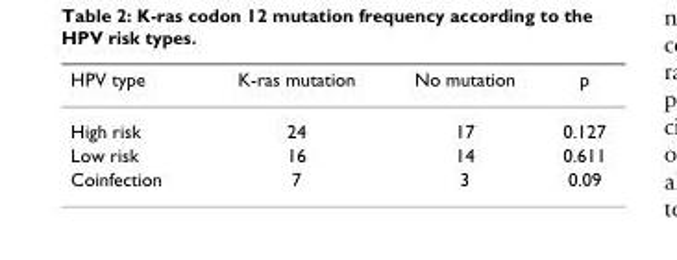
<table><thead><tr><td>HPV type</td><td>K-ras mutation</td><td>No mutation</td><td>p</td></tr></thead><tbody><tr><td>High risk</td><td>24</td><td>17</td><td>0.127</td></tr><tr><td>Low risk</td><td>16</td><td>14</td><td>0.611</td></tr><tr><td>Coinfection</td><td>7</td><td>3</td><td>0.09</td></tr></tbody></table>